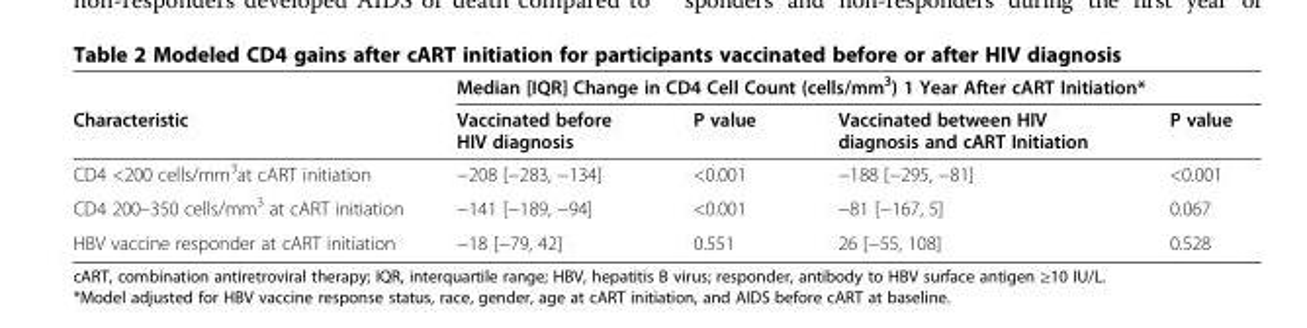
<table><thead><tr><td rowspan="2">Characteristic</td><td colspan="4">Median [IQR] Change in CD4 Cell Count (cells/mm<sup>3</sup>) 1 Year After cART Initiation*</td></tr><tr><td>Vaccinated before HIV diagnosis</td><td>P value</td><td>Vaccinated between HIV diagnosis and cART Initiation</td><td>P value</td></tr></thead><tbody><tr><td>CD4 &lt;200 cells/mm<sup>3</sup>at cART initiation</td><td>−208 [−283, −134]</td><td>&lt;0.001</td><td>−188 [−295, −81]</td><td>&lt;0.001</td></tr><tr><td>CD4 200–350 cells/mm<sup>3</sup> at cART initiation</td><td>−141 [−189, −94]</td><td>&lt;0.001</td><td>−81 [−167, 5]</td><td>0.067</td></tr><tr><td>HBV vaccine responder at cART initiation</td><td>−18 [−79, 42]</td><td>0.551</td><td>26 [−55, 108]</td><td>0.528</td></tr></tbody></table>